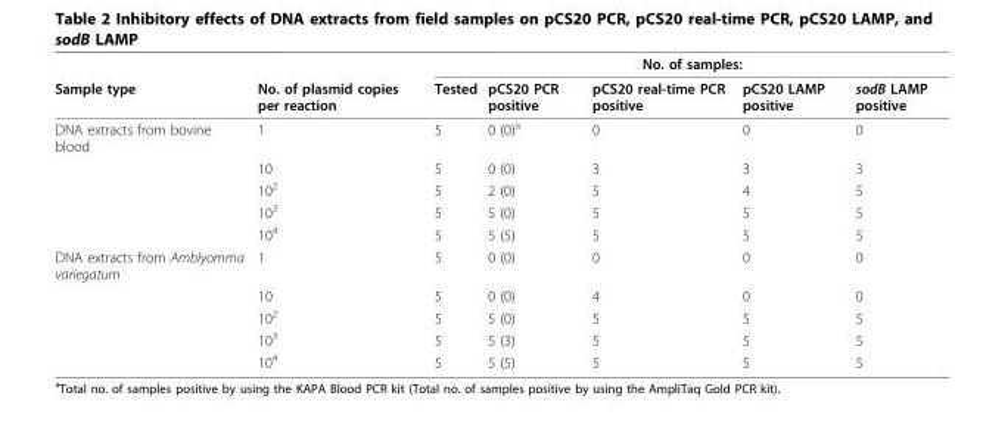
<table><thead><tr><td rowspan="2">Sample type</td><td rowspan="2">No. of plasmid copies per reaction</td><td colspan="5">No. of samples:</td></tr><tr><td>Tested</td><td>pCS20 PCR positive</td><td>pCS20 real-time PCR positive</td><td>pCS20 LAMP positive</td><td>sodB LAMP positive</td></tr></thead><tbody><tr><td rowspan="5">DNA extracts from bovine blood</td><td>1</td><td>5</td><td>0 (0)<sup>a</sup></td><td>0</td><td>0</td><td>0</td></tr><tr><td>10</td><td>5</td><td>0 (0)</td><td>3</td><td>3</td><td>3</td></tr><tr><td>10<sup>2</sup></td><td>5</td><td>2 (0)</td><td>5</td><td>4</td><td>5</td></tr><tr><td>10<sup>3</sup></td><td>5</td><td>5 (0)</td><td>5</td><td>5</td><td>5</td></tr><tr><td>10<sup>4</sup></td><td>5</td><td>5 (5)</td><td>5</td><td>5</td><td>5</td></tr><tr><td rowspan="5">DNA extracts from Amblyomma variegatum</td><td>1</td><td>5</td><td>0 (0)</td><td>0</td><td>0</td><td>0</td></tr><tr><td>10</td><td>5</td><td>0 (0)</td><td>4</td><td>0</td><td>0</td></tr><tr><td>10<sup>2</sup></td><td>5</td><td>5 (0)</td><td>5</td><td>5</td><td>5</td></tr><tr><td>10<sup>3</sup></td><td>5</td><td>5 (3)</td><td>5</td><td>5</td><td>5</td></tr><tr><td>10<sup>4</sup></td><td>5</td><td>5 (5)</td><td>5</td><td>5</td><td>5</td></tr></tbody></table>